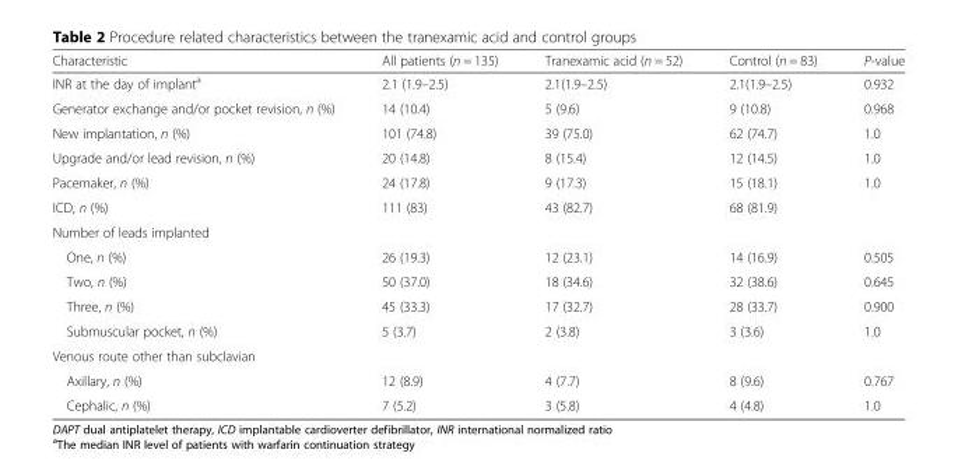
<table><thead><tr><td>Characteristic</td><td>All patients (n = 135)</td><td>Tranexamic acid (n = 52)</td><td>Control (n = 83)</td><td>P-value</td></tr></thead><tbody><tr><td>INR at the day of implant<sup>a</sup></td><td>2.1 (1.9–2.5)</td><td>2.1(1.9–2.5)</td><td>2.1(1.9–2.5)</td><td>0.932</td></tr><tr><td>Generator exchange and/or pocket revision, n (%)</td><td>14 (10.4)</td><td>5 (9.6)</td><td>9 (10.8)</td><td>0.968</td></tr><tr><td>New implantation, n (%)</td><td>101 (74.8)</td><td>39 (75.0)</td><td>62 (74.7)</td><td>1.0</td></tr><tr><td>Upgrade and/or lead revision, n (%)</td><td>20 (14.8)</td><td>8 (15.4)</td><td>12 (14.5)</td><td>1.0</td></tr><tr><td>Pacemaker, n (%)</td><td>24 (17.8)</td><td>9 (17.3)</td><td>15 (18.1)</td><td>1.0</td></tr><tr><td>ICD, n (%)</td><td>111 (83)</td><td>43 (82.7)</td><td>68 (81.9)</td><td></td></tr><tr><td colspan="5">Number of leads implanted</td></tr><tr><td>One, n (%)</td><td>26 (19.3)</td><td>12 (23.1)</td><td>14 (16.9)</td><td>0.505</td></tr><tr><td>Two, n (%)</td><td>50 (37.0)</td><td>18 (34.6)</td><td>32 (38.6)</td><td>0.645</td></tr><tr><td>Three, n (%)</td><td>45 (33.3)</td><td>17 (32.7)</td><td>28 (33.7)</td><td>0.900</td></tr><tr><td>Submuscular pocket, n (%)</td><td>5 (3.7)</td><td>2 (3.8)</td><td>3 (3.6)</td><td>1.0</td></tr><tr><td colspan="5">Venous route other than subclavian</td></tr><tr><td>Axillary, n (%)</td><td>12 (8.9)</td><td>4 (7.7)</td><td>8 (9.6)</td><td>0.767</td></tr><tr><td>Cephalic, n (%)</td><td>7 (5.2)</td><td>3 (5.8)</td><td>4 (4.8)</td><td>1.0</td></tr></tbody></table>